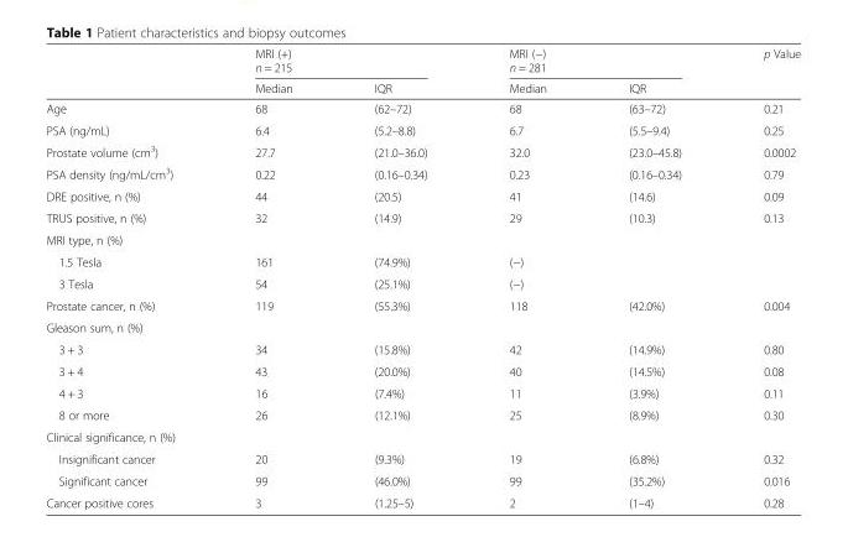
<table><thead><tr><td rowspan="2"></td><td colspan="2">MRI (+) n = 215</td><td colspan="2">MRI (−) n = 281</td><td rowspan="2">p Value</td></tr><tr><td>Median</td><td>IQR</td><td>Median</td><td>IQR</td></tr></thead><tbody><tr><td>Age</td><td>68</td><td>(62–72)</td><td>68</td><td>(63–72)</td><td>0.21</td></tr><tr><td>PSA (ng/mL)</td><td>6.4</td><td>(5.2–8.8)</td><td>6.7</td><td>(5.5–9.4)</td><td>0.25</td></tr><tr><td>Prostate volume (cm<sup>3</sup>)</td><td>27.7</td><td>(21.0–36.0)</td><td>32.0</td><td>(23.0–45.8)</td><td>0.0002</td></tr><tr><td>PSA density (ng/mL/cm<sup>3</sup>)</td><td>0.22</td><td>(0.16–0.34)</td><td>0.23</td><td>(0.16–0.34)</td><td>0.79</td></tr><tr><td>DRE positive, n (%)</td><td>44</td><td>(20.5)</td><td>41</td><td>(14.6)</td><td>0.09</td></tr><tr><td>TRUS positive, n (%)</td><td>32</td><td>(14.9)</td><td>29</td><td>(10.3)</td><td>0.13</td></tr><tr><td colspan="6">MRI type, n (%)</td></tr><tr><td>1.5 Tesla</td><td>161</td><td>(74.9%)</td><td>(−)</td><td></td><td></td></tr><tr><td>3 Tesla</td><td>54</td><td>(25.1%)</td><td>(−)</td><td></td><td></td></tr><tr><td>Prostate cancer, n (%)</td><td>119</td><td>(55.3%)</td><td>118</td><td>(42.0%)</td><td>0.004</td></tr><tr><td colspan="6">Gleason sum, n (%)</td></tr><tr><td>3 + 3</td><td>34</td><td>(15.8%)</td><td>42</td><td>(14.9%)</td><td>0.80</td></tr><tr><td>3 + 4</td><td>43</td><td>(20.0%)</td><td>40</td><td>(14.5%)</td><td>0.08</td></tr><tr><td>4 + 3</td><td>16</td><td>(7.4%)</td><td>11</td><td>(3.9%)</td><td>0.11</td></tr><tr><td>8 or more</td><td>26</td><td>(12.1%)</td><td>25</td><td>(8.9%)</td><td>0.30</td></tr><tr><td colspan="6">Clinical significance, n (%)</td></tr><tr><td>Insignificant cancer</td><td>20</td><td>(9.3%)</td><td>19</td><td>(6.8%)</td><td>0.32</td></tr><tr><td>Significant cancer</td><td>99</td><td>(46.0%)</td><td>99</td><td>(35.2%)</td><td>0.016</td></tr><tr><td>Cancer positive cores</td><td>3</td><td>(1.25–5)</td><td>2</td><td>(1–4)</td><td>0.28</td></tr></tbody></table>